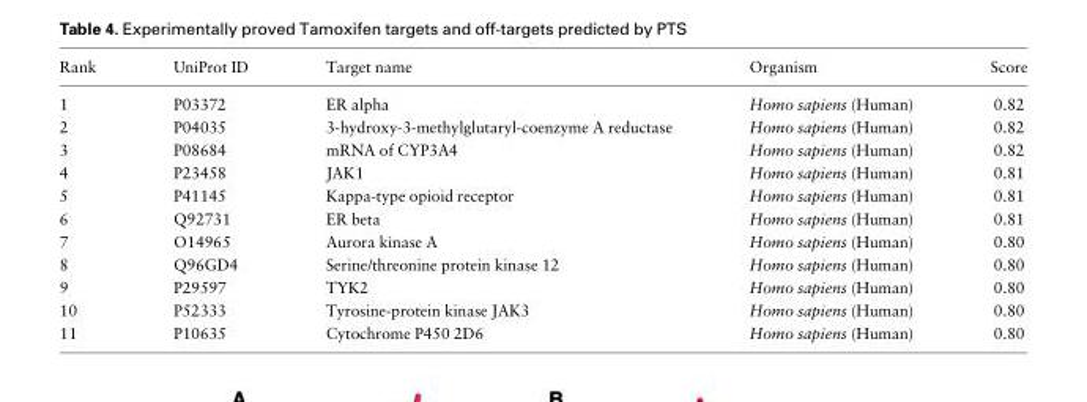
<table><thead><tr><td>Rank</td><td>UniProt ID</td><td>Target name</td><td>Organism</td><td>Score</td></tr></thead><tbody><tr><td>1</td><td>P03372</td><td>ER alpha</td><td>Homo sapiens (Human)</td><td>0.82</td></tr><tr><td>2</td><td>P04035</td><td>3-hydroxy-3-methylglutaryl-coenzyme A reductase</td><td>Homo sapiens (Human)</td><td>0.82</td></tr><tr><td>3</td><td>P08684</td><td>mRNA of CYP3A4</td><td>Homo sapiens (Human)</td><td>0.82</td></tr><tr><td>4</td><td>P23458</td><td>JAK1</td><td>Homo sapiens (Human)</td><td>0.81</td></tr><tr><td>5</td><td>P41145</td><td>Kappa-type opioid receptor</td><td>Homo sapiens (Human)</td><td>0.81</td></tr><tr><td>6</td><td>Q92731</td><td>ER beta</td><td>Homo sapiens (Human)</td><td>0.81</td></tr><tr><td>7</td><td>O14965</td><td>Aurora kinase A</td><td>Homo sapiens (Human)</td><td>0.80</td></tr><tr><td>8</td><td>Q96GD4</td><td>Serine/threonine protein kinase 12</td><td>Homo sapiens (Human)</td><td>0.80</td></tr><tr><td>9</td><td>P29597</td><td>TYK2</td><td>Homo sapiens (Human)</td><td>0.80</td></tr><tr><td>10</td><td>P52333</td><td>Tyrosine-protein kinase JAK3</td><td>Homo sapiens (Human)</td><td>0.80</td></tr><tr><td>11</td><td>P10635</td><td>Cytochrome P450 2D6</td><td>Homo sapiens (Human)</td><td>0.80</td></tr></tbody></table>